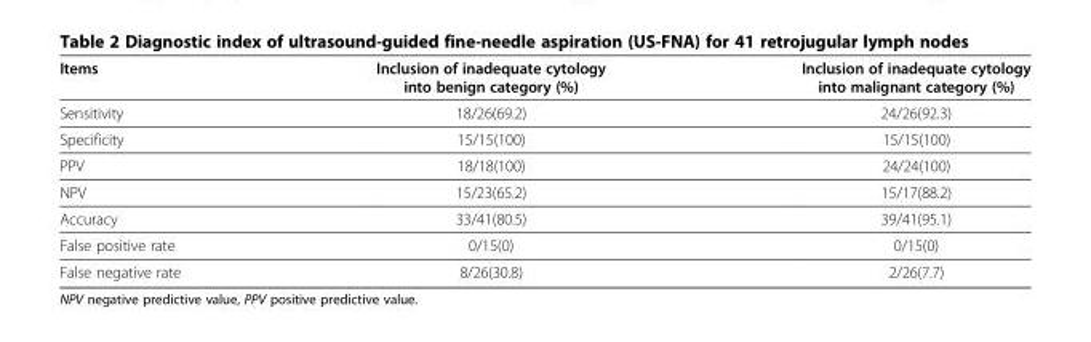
<table><thead><tr><td>Items</td><td>Inclusion of inadequate cytology into benign category (%)</td><td>Inclusion of inadequate cytology into malignant category (%)</td></tr></thead><tbody><tr><td>Sensitivity</td><td>18/26(69.2)</td><td>24/26(92.3)</td></tr><tr><td>Specificity</td><td>15/15(100)</td><td>15/15(100)</td></tr><tr><td>PPV</td><td>18/18(100)</td><td>24/24(100)</td></tr><tr><td>NPV</td><td>15/23(65.2)</td><td>15/17(88.2)</td></tr><tr><td>Accuracy</td><td>33/41(80.5)</td><td>39/41(95.1)</td></tr><tr><td>False positive rate</td><td>0/15(0)</td><td>0/15(0)</td></tr><tr><td>False negative rate</td><td>8/26(30.8)</td><td>2/26(7.7)</td></tr></tbody></table>